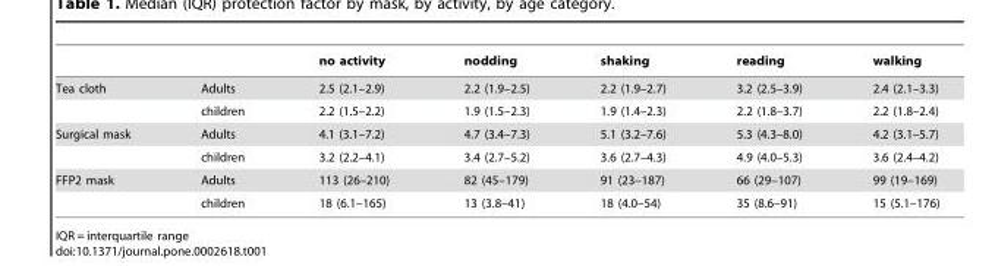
<table><thead><tr><td></td><td></td><td>no activity</td><td>nodding</td><td>shaking</td><td>reading</td><td>walking</td></tr></thead><tbody><tr><td rowspan="2">Tea cloth</td><td>Adults</td><td>2.5 (2.1–2.9)</td><td>2.2 (1.9–2.5)</td><td>2.2 (1.9–2.7)</td><td>3.2 (2.5–3.9)</td><td>2.4 (2.1–3.3)</td></tr><tr><td>children</td><td>2.2 (1.5–2.2)</td><td>1.9 (1.5–2.3)</td><td>1.9 (1.4–2.3)</td><td>2.2 (1.8–3.7)</td><td>2.2 (1.8–2.4)</td></tr><tr><td rowspan="2">Surgical mask</td><td>Adults</td><td>4.1 (3.1–7.2)</td><td>4.7 (3.4–7.3)</td><td>5.1 (3.2–7.6)</td><td>5.3 (4.3–8.0)</td><td>4.2 (3.1–5.7)</td></tr><tr><td>children</td><td>3.2 (2.2–4.1)</td><td>3.4 (2.7–5.2)</td><td>3.6 (2.7–4.3)</td><td>4.9 (4.0–5.3)</td><td>3.6 (2.4–4.2)</td></tr><tr><td rowspan="2">FFP2 mask</td><td>Adults</td><td>113 (26–210)</td><td>82 (45–179)</td><td>91 (23–187)</td><td>66 (29–107)</td><td>99 (19–169)</td></tr><tr><td>children</td><td>18 (6.1–165)</td><td>13 (3.8–41)</td><td>18 (4.0–54)</td><td>35 (8.6–91)</td><td>15 (5.1–176)</td></tr></tbody></table>